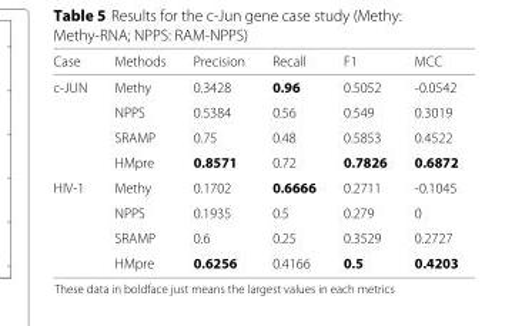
<table><thead><tr><td>Case</td><td>Methods</td><td>Precision</td><td>Recall</td><td>F1</td><td>MCC</td></tr></thead><tbody><tr><td rowspan="4">c-JUN</td><td>Methy</td><td>0.3428</td><td>0.96</td><td>0.5052</td><td>-0.0542</td></tr><tr><td>NPPS</td><td>0.5384</td><td>0.56</td><td>0.549</td><td>0.3019</td></tr><tr><td>SRAMP</td><td>0.75</td><td>0.48</td><td>0.5853</td><td>0.4522</td></tr><tr><td>HMpre</td><td>0.8571</td><td>0.72</td><td>0.7826</td><td>0.6872</td></tr><tr><td rowspan="4">HIV-1</td><td>Methy</td><td>0.1702</td><td>0.6666</td><td>0.2711</td><td>-0.1045</td></tr><tr><td>NPPS</td><td>0.1935</td><td>0.5</td><td>0.279</td><td>0</td></tr><tr><td>SRAMP</td><td>0.6</td><td>0.25</td><td>0.3529</td><td>0.2727</td></tr><tr><td>HMpre</td><td>0.6256</td><td>0.4166</td><td>0.5</td><td>0.4203</td></tr></tbody></table>